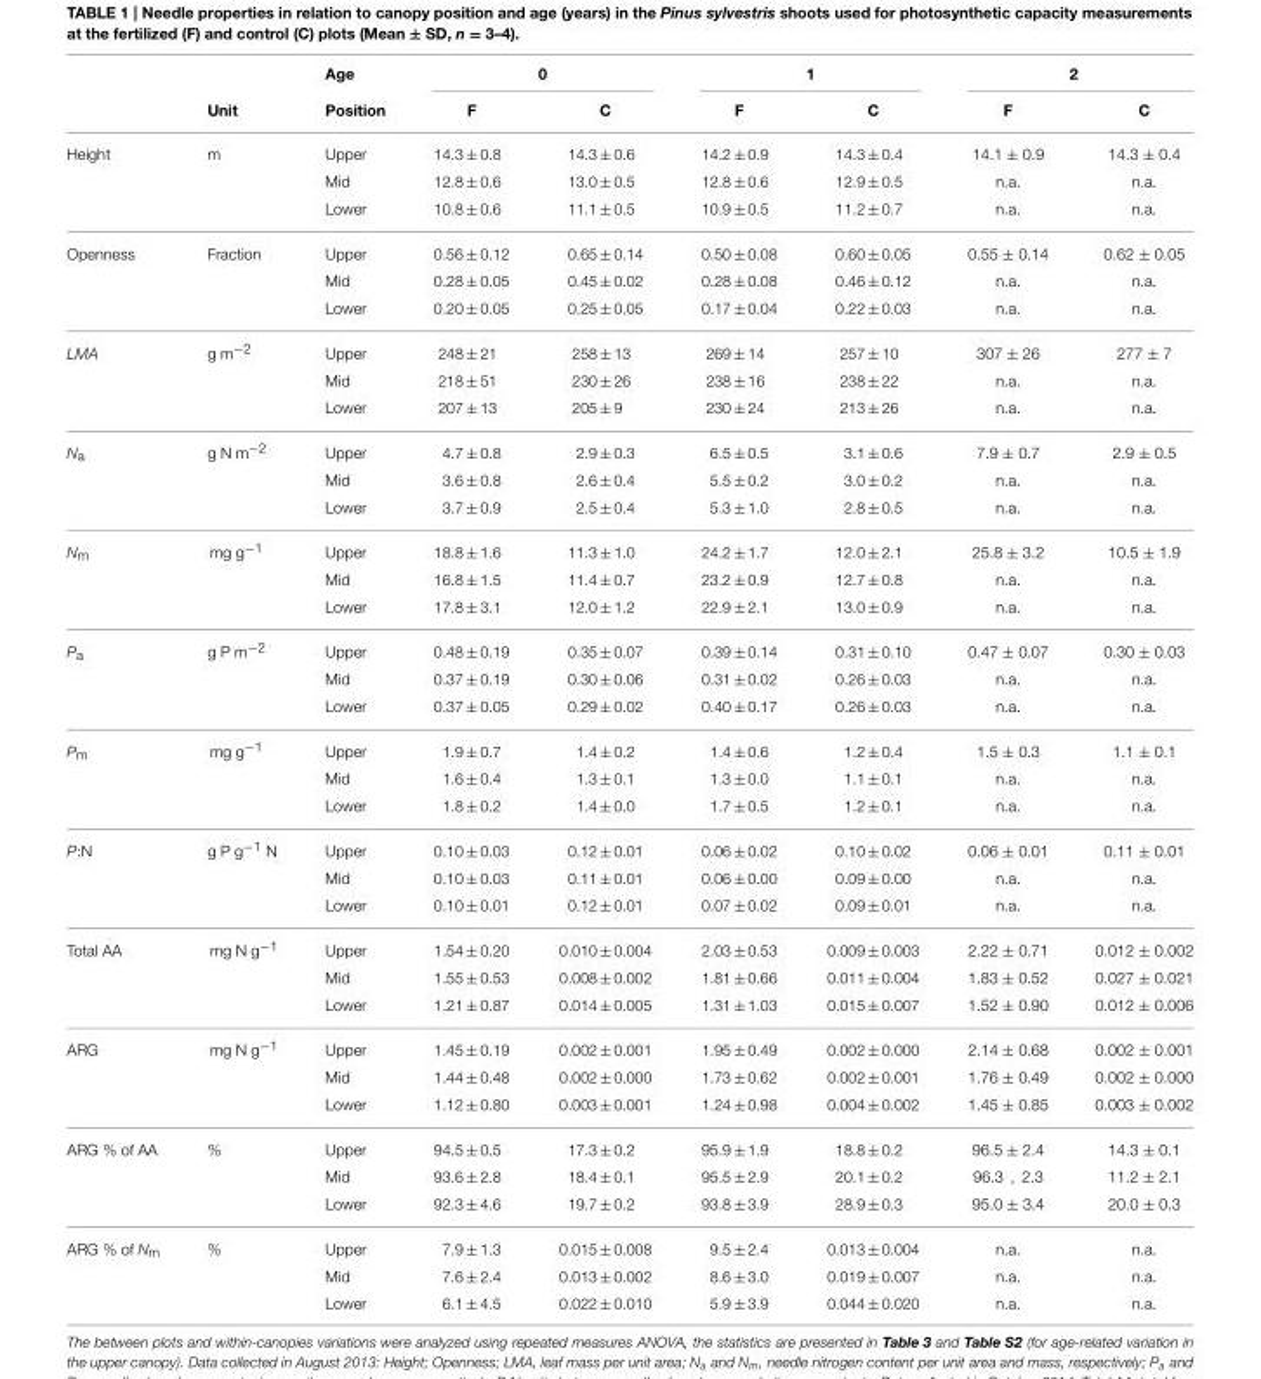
<table><thead><tr><td rowspan="2"></td><td rowspan="2">Unit</td><td rowspan="2">Age Position</td><td colspan="2">0</td><td colspan="2">1</td><td colspan="2">2</td></tr><tr><td>F</td><td>C</td><td>F</td><td>C</td><td>F</td><td>C</td></tr></thead><tbody><tr><td rowspan="3">Height</td><td>m</td><td>Upper</td><td>14.3 ± 0.8</td><td>14.3 ± 0.6</td><td>14.2 ± 0.9</td><td>14.3 ± 0.4</td><td>14.1 ± 0.9</td><td>14.3 ± 0.4</td></tr><tr><td></td><td>Mid</td><td>12.8 ± 0.6</td><td>13.0 ± 0.5</td><td>12.8 ± 0.6</td><td>12.9 ± 0.5</td><td>n.a.</td><td>n.a.</td></tr><tr><td></td><td>Lower</td><td>10.8 ± 0.6</td><td>11.1 ± 0.5</td><td>10.9 ± 0.5</td><td>11.2 ± 0.7</td><td>n.a.</td><td>n.a.</td></tr><tr><td rowspan="3">Openness</td><td>Fraction</td><td>Upper</td><td>0.56 ± 0.12</td><td>0.65 ± 0.14</td><td>0.50 ± 0.08</td><td>0.60 ± 0.05</td><td>0.55 ± 0.14</td><td>0.62 ± 0.05</td></tr><tr><td></td><td>Mid</td><td>0.28 ± 0.05</td><td>0.45 ± 0.02</td><td>0.28 ± 0.08</td><td>0.46 ± 0.12</td><td>n.a.</td><td>n.a.</td></tr><tr><td></td><td>Lower</td><td>0.20 ± 0.05</td><td>0.25 ± 0.05</td><td>0.17 ± 0.04</td><td>0.22 ± 0.03</td><td>n.a.</td><td>n.a.</td></tr><tr><td rowspan="3">LMA</td><td>g m<sup>−2</sup></td><td>Upper</td><td>248 ± 21</td><td>258 ± 13</td><td>269 ± 14</td><td>257 ± 10</td><td>307 ± 26</td><td>277 ± 7</td></tr><tr><td></td><td>Mid</td><td>218 ± 51</td><td>230 ± 26</td><td>238 ± 16</td><td>238 ± 22</td><td>n.a.</td><td>n.a.</td></tr><tr><td></td><td>Lower</td><td>207 ± 13</td><td>205 ± 9</td><td>230 ± 24</td><td>213 ± 26</td><td>n.a.</td><td>n.a.</td></tr><tr><td rowspan="3">N<sub>a</sub></td><td>g N m<sup>−2</sup></td><td>Upper</td><td>4.7 ± 0.8</td><td>2.9 ± 0.3</td><td>6.5 ± 0.5</td><td>3.1 ± 0.6</td><td>7.9 ± 0.7</td><td>2.9 ± 0.5</td></tr><tr><td></td><td>Mid</td><td>3.6 ± 0.8</td><td>2.6 ± 0.4</td><td>5.5 ± 0.2</td><td>3.0 ± 0.2</td><td>n.a.</td><td>n.a.</td></tr><tr><td></td><td>Lower</td><td>3.7 ± 0.9</td><td>2.5 ± 0.4</td><td>5.3 ± 1.0</td><td>2.8 ± 0.5</td><td>n.a.</td><td>n.a.</td></tr><tr><td rowspan="3">N<sub>m</sub></td><td>mg g<sup>−1</sup></td><td>Upper</td><td>18.8 ± 1.6</td><td>11.3 ± 1.0</td><td>24.2 ± 1.7</td><td>12.0 ± 2.1</td><td>25.8 ± 3.2</td><td>10.5 ± 1.9</td></tr><tr><td></td><td>Mid</td><td>16.8 ± 1.5</td><td>11.4 ± 0.7</td><td>23.2 ± 0.9</td><td>12.7 ± 0.8</td><td>n.a.</td><td>n.a.</td></tr><tr><td></td><td>Lower</td><td>17.8 ± 3.1</td><td>12.0 ± 1.2</td><td>22.9 ± 2.1</td><td>13.0 ± 0.9</td><td>n.a.</td><td>n.a.</td></tr><tr><td rowspan="3">P<sub>a</sub></td><td>g P m<sup>−2</sup></td><td>Upper</td><td>0.48 ± 0.19</td><td>0.35 ± 0.07</td><td>0.39 ± 0.14</td><td>0.31 ± 0.10</td><td>0.47 ± 0.07</td><td>0.30 ± 0.03</td></tr><tr><td></td><td>Mid</td><td>0.37 ± 0.19</td><td>0.30 ± 0.06</td><td>0.31 ± 0.02</td><td>0.26 ± 0.03</td><td>n.a.</td><td>n.a.</td></tr><tr><td></td><td>Lower</td><td>0.37 ± 0.05</td><td>0.29 ± 0.02</td><td>0.40 ± 0.17</td><td>0.26 ± 0.03</td><td>n.a.</td><td>n.a.</td></tr><tr><td rowspan="3">P<sub>m</sub></td><td>mg g<sup>−1</sup></td><td>Upper</td><td>1.9 ± 0.7</td><td>1.4 ± 0.2</td><td>1.4 ± 0.6</td><td>1.2 ± 0.4</td><td>1.5 ± 0.3</td><td>1.1 ± 0.1</td></tr><tr><td></td><td>Mid</td><td>1.6 ± 0.4</td><td>1.3 ± 0.1</td><td>1.3 ± 0.0</td><td>1.1 ± 0.1</td><td>n.a.</td><td>n.a.</td></tr><tr><td></td><td>Lower</td><td>1.8 ± 0.2</td><td>1.4 ± 0.0</td><td>1.7 ± 0.5</td><td>1.2 ± 0.1</td><td>n.a.</td><td>n.a.</td></tr><tr><td rowspan="3">P:N</td><td>g P g<sup>−1</sup> N</td><td>Upper</td><td>0.10 ± 0.03</td><td>0.12 ± 0.01</td><td>0.06 ± 0.02</td><td>0.10 ± 0.02</td><td>0.06 ± 0.01</td><td>0.11 ± 0.01</td></tr><tr><td></td><td>Mid</td><td>0.10 ± 0.03</td><td>0.11 ± 0.01</td><td>0.06 ± 0.00</td><td>0.09 ± 0.00</td><td>n.a.</td><td>n.a.</td></tr><tr><td></td><td>Lower</td><td>0.10 ± 0.01</td><td>0.12 ± 0.01</td><td>0.07 ± 0.02</td><td>0.09 ± 0.01</td><td>n.a.</td><td>n.a.</td></tr><tr><td rowspan="3">Total AA</td><td>mg N g<sup>−1</sup></td><td>Upper</td><td>1.54 ± 0.20</td><td>0.010 ± 0.004</td><td>2.03 ± 0.53</td><td>0.009 ± 0.003</td><td>2.22 ± 0.71</td><td>0.012 ± 0.002</td></tr><tr><td></td><td>Mid</td><td>1.55 ± 0.53</td><td>0.008 ± 0.002</td><td>1.81 ± 0.66</td><td>0.011 ± 0.004</td><td>1.83 ± 0.52</td><td>0.027 ± 0.021</td></tr><tr><td></td><td>Lower</td><td>1.21 ± 0.87</td><td>0.014 ± 0.005</td><td>1.31 ± 1.03</td><td>0.015 ± 0.007</td><td>1.52 ± 0.90</td><td>0.012 ± 0.006</td></tr><tr><td rowspan="3">ARG</td><td>mg N g<sup>−1</sup></td><td>Upper</td><td>1.45 ± 0.19</td><td>0.002 ± 0.001</td><td>1.95 ± 0.49</td><td>0.002 ± 0.000</td><td>2.14 ± 0.68</td><td>0.002 ± 0.001</td></tr><tr><td></td><td>Mid</td><td>1.44 ± 0.48</td><td>0.002 ± 0.000</td><td>1.73 ± 0.62</td><td>0.002 ± 0.001</td><td>1.76 ± 0.49</td><td>0.002 ± 0.000</td></tr><tr><td></td><td>Lower</td><td>1.12 ± 0.80</td><td>0.003 ± 0.001</td><td>1.24 ± 0.98</td><td>0.004 ± 0.002</td><td>1.45 ± 0.85</td><td>0.003 ± 0.002</td></tr><tr><td rowspan="3">ARG % of AA</td><td>%</td><td>Upper</td><td>94.5 ± 0.5</td><td>17.3 ± 0.2</td><td>95.9 ± 1.9</td><td>18.8 ± 0.2</td><td>96.5 ± 2.4</td><td>14.3 ± 0.1</td></tr><tr><td></td><td>Mid</td><td>93.6 ± 2.8</td><td>18.4 ± 0.1</td><td>95.5 ± 2.9</td><td>20.1 ± 0.2</td><td>96.3 ± 2.3</td><td>11.2 ± 2.1</td></tr><tr><td></td><td>Lower</td><td>92.3 ± 4.6</td><td>19.7 ± 0.2</td><td>93.8 ± 3.9</td><td>28.9 ± 0.3</td><td>95.0 ± 3.4</td><td>20.0 ± 0.3</td></tr><tr><td rowspan="3">ARG % of N<sub>m</sub></td><td>%</td><td>Upper</td><td>7.9 ± 1.3</td><td>0.015 ± 0.008</td><td>9.5 ± 2.4</td><td>0.013 ± 0.004</td><td>n.a.</td><td>n.a.</td></tr><tr><td></td><td>Mid</td><td>7.6 ± 2.4</td><td>0.013 ± 0.002</td><td>8.6 ± 3.0</td><td>0.019 ± 0.007</td><td>n.a.</td><td>n.a.</td></tr><tr><td></td><td>Lower</td><td>6.1 ± 4.5</td><td>0.022 ± 0.010</td><td>5.9 ± 3.9</td><td>0.044 ± 0.020</td><td>n.a.</td><td>n.a.</td></tr></tbody></table>